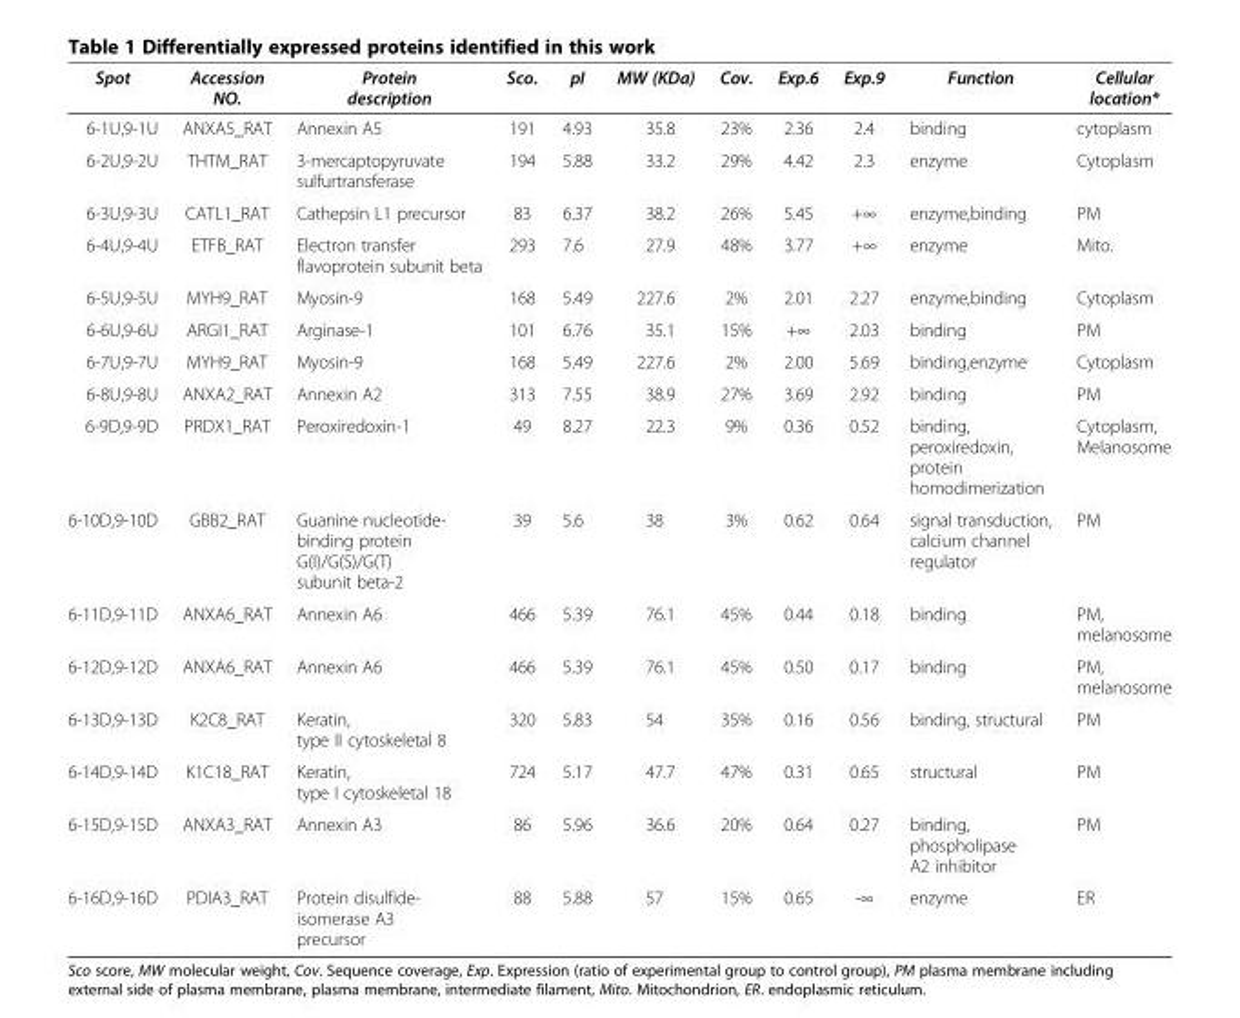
<table><thead><tr><td>Spot</td><td>Accession NO.</td><td>Protein description</td><td>Sco.</td><td>pI</td><td>MW (KDa)</td><td>Cov.</td><td>Exp.6</td><td>Exp.9</td><td>Function</td><td>Cellular location*</td></tr></thead><tbody><tr><td>6-1U,9-1U</td><td>ANXA5_RAT</td><td>Annexin A5</td><td>191</td><td>4.93</td><td>35.8</td><td>23%</td><td>2.36</td><td>2.4</td><td>binding</td><td>cytoplasm</td></tr><tr><td>6-2U,9-2U</td><td>THTM_RAT</td><td>3-mercaptopyruvate sulfurtransferase</td><td>194</td><td>5.88</td><td>33.2</td><td>29%</td><td>4.42</td><td>2.3</td><td>enzyme</td><td>Cytoplasm</td></tr><tr><td>6-3U,9-3U</td><td>CATL1_RAT</td><td>Cathepsin L1 precursor</td><td>83</td><td>6.37</td><td>38.2</td><td>26%</td><td>5.45</td><td>+∞</td><td>enzyme,binding</td><td>PM</td></tr><tr><td>6-4U,9-4U</td><td>ETFB_RAT</td><td>Electron transfer flavoprotein subunit beta</td><td>293</td><td>7.6</td><td>27.9</td><td>48%</td><td>3.77</td><td>+∞</td><td>enzyme</td><td>Mito.</td></tr><tr><td>6-5U,9-5U</td><td>MYH9_RAT</td><td>Myosin-9</td><td>168</td><td>5.49</td><td>227.6</td><td>2%</td><td>2.01</td><td>2.27</td><td>enzyme,binding</td><td>Cytoplasm</td></tr><tr><td>6-6U,9-6U</td><td>ARGI1_RAT</td><td>Arginase-1</td><td>101</td><td>6.76</td><td>35.1</td><td>15%</td><td>+∞</td><td>2.03</td><td>binding</td><td>PM</td></tr><tr><td>6-7U,9-7U</td><td>MYH9_RAT</td><td>Myosin-9</td><td>168</td><td>5.49</td><td>227.6</td><td>2%</td><td>2.00</td><td>5.69</td><td>binding,enzyme</td><td>Cytoplasm</td></tr><tr><td>6-8U,9-8U</td><td>ANXA2_RAT</td><td>Annexin A2</td><td>313</td><td>7.55</td><td>38.9</td><td>27%</td><td>3.69</td><td>2.92</td><td>binding</td><td>PM</td></tr><tr><td>6-9D,9-9D</td><td>PRDX1_RAT</td><td>Peroxiredoxin-1</td><td>49</td><td>8.27</td><td>22.3</td><td>9%</td><td>0.36</td><td>0.52</td><td>binding, peroxiredoxin, protein homodimerization</td><td>Cytoplasm, Melanosome</td></tr><tr><td>6-10D,9-10D</td><td>GBB2_RAT</td><td>Guanine nucleotide- binding protein G(I)/G(S)/G(T) subunit beta-2</td><td>39</td><td>5.6</td><td>38</td><td>3%</td><td>0.62</td><td>0.64</td><td>signal transduction, calcium channel regulator</td><td>PM</td></tr><tr><td>6-11D,9-11D</td><td>ANXA6_RAT</td><td>Annexin A6</td><td>466</td><td>5.39</td><td>76.1</td><td>45%</td><td>0.44</td><td>0.18</td><td>binding</td><td>PM, melanosome</td></tr><tr><td>6-12D,9-12D</td><td>ANXA6_RAT</td><td>Annexin A6</td><td>466</td><td>5.39</td><td>76.1</td><td>45%</td><td>0.50</td><td>0.17</td><td>binding</td><td>PM, melanosome</td></tr><tr><td>6-13D,9-13D</td><td>K2C8_RAT</td><td>Keratin, type II cytoskeletal 8</td><td>320</td><td>5.83</td><td>54</td><td>35%</td><td>0.16</td><td>0.56</td><td>binding, structural</td><td>PM</td></tr><tr><td>6-14D,9-14D</td><td>K1C18_RAT</td><td>Keratin, type I cytoskeletal 18</td><td>724</td><td>5.17</td><td>47.7</td><td>47%</td><td>0.31</td><td>0.65</td><td>structural</td><td>PM</td></tr><tr><td>6-15D,9-15D</td><td>ANXA3_RAT</td><td>Annexin A3</td><td>86</td><td>5.96</td><td>36.6</td><td>20%</td><td>0.64</td><td>0.27</td><td>binding, phospholipase A2 inhibitor</td><td>PM</td></tr><tr><td>6-16D,9-16D</td><td>PDIA3_RAT</td><td>Protein disulfide- isomerase A3 precursor</td><td>88</td><td>5.88</td><td>57</td><td>15%</td><td>0.65</td><td>-∞</td><td>enzyme</td><td>ER</td></tr></tbody></table>